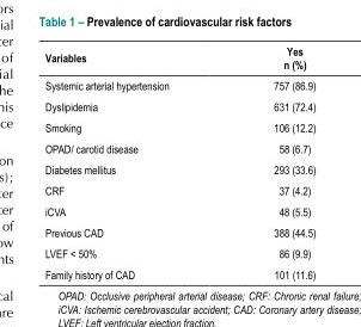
<table><thead><tr><td>Variables</td><td>Yes n (%)</td></tr></thead><tbody><tr><td>Systemic arterial hypertension</td><td>757 (86.9)</td></tr><tr><td>Dyslipidemia</td><td>631 (72.4)</td></tr><tr><td>Smoking</td><td>106 (12.2)</td></tr><tr><td>OPAD/ carotid disease</td><td>58 (6.7)</td></tr><tr><td>Diabetes mellitus</td><td>293 (33.6)</td></tr><tr><td>CRF</td><td>37 (4.2)</td></tr><tr><td>iCVA</td><td>48 (5.5)</td></tr><tr><td>Previous CAD</td><td>388 (44.5)</td></tr><tr><td>LVEF &lt; 50%</td><td>86 (9.9)</td></tr><tr><td>Family history of CAD</td><td>101 (11.6)</td></tr></tbody></table>